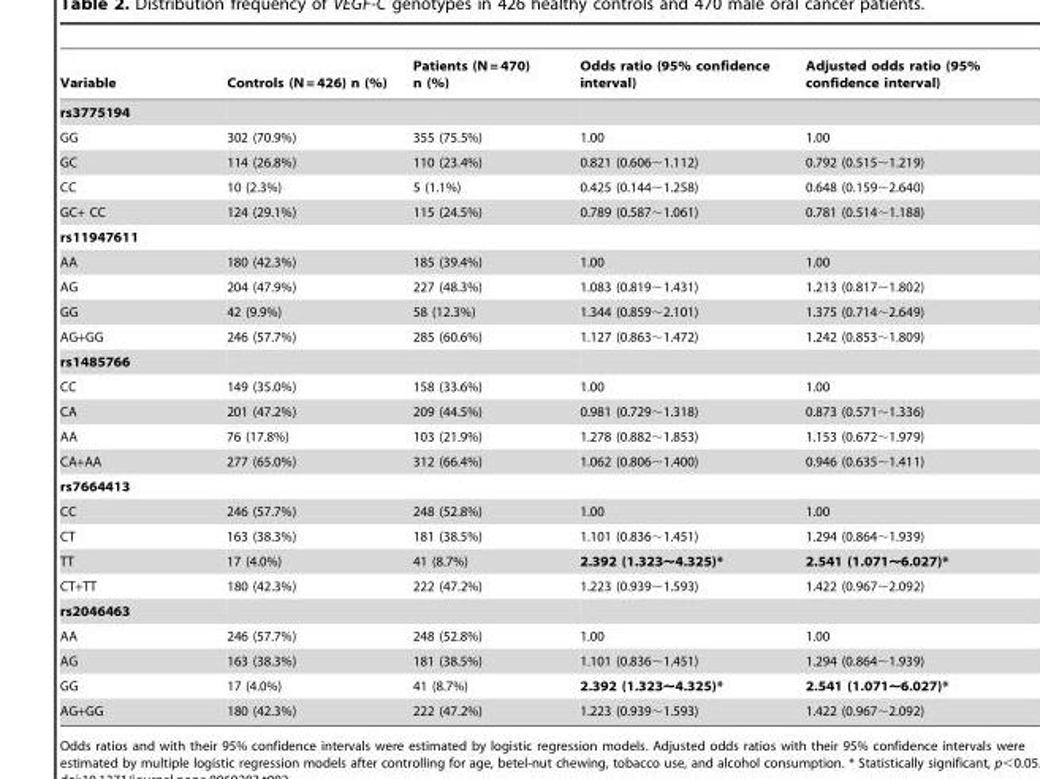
<table><thead><tr><td>Variable</td><td>Controls (N = 426) n (%)</td><td>Patients (N = 470) n (%)</td><td>Odds ratio (95% confidence interval)</td><td>Adjusted odds ratio (95% confidence interval)</td></tr></thead><tbody><tr><td colspan="5">rs3775194</td></tr><tr><td>GG</td><td>302 (70.9%)</td><td>355 (75.5%)</td><td>1.00</td><td>1.00</td></tr><tr><td>GC</td><td>114 (26.8%)</td><td>110 (23.4%)</td><td>0.821 (0.606∼1.112)</td><td>0.792 (0.515∼1.219)</td></tr><tr><td>CC</td><td>10 (2.3%)</td><td>5 (1.1%)</td><td>0.425 (0.144∼1.258)</td><td>0.648 (0.159∼2.640)</td></tr><tr><td>GC+ CC</td><td>124 (29.1%)</td><td>115 (24.5%)</td><td>0.789 (0.587∼1.061)</td><td>0.781 (0.514∼1.188)</td></tr><tr><td colspan="5">rs11947611</td></tr><tr><td>AA</td><td>180 (42.3%)</td><td>185 (39.4%)</td><td>1.00</td><td>1.00</td></tr><tr><td>AG</td><td>204 (47.9%)</td><td>227 (48.3%)</td><td>1.083 (0.819∼1.431)</td><td>1.213 (0.817∼1.802)</td></tr><tr><td>GG</td><td>42 (9.9%)</td><td>58 (12.3%)</td><td>1.344 (0.859∼2.101)</td><td>1.375 (0.714∼2.649)</td></tr><tr><td>AG+GG</td><td>246 (57.7%)</td><td>285 (60.6%)</td><td>1.127 (0.863∼1.472)</td><td>1.242 (0.853∼1.809)</td></tr><tr><td colspan="5">rs1485766</td></tr><tr><td>CC</td><td>149 (35.0%)</td><td>158 (33.6%)</td><td>1.00</td><td>1.00</td></tr><tr><td>CA</td><td>201 (47.2%)</td><td>209 (44.5%)</td><td>0.981 (0.729∼1.318)</td><td>0.873 (0.571∼1.336)</td></tr><tr><td>AA</td><td>76 (17.8%)</td><td>103 (21.9%)</td><td>1.278 (0.882∼1.853)</td><td>1.153 (0.672∼1.979)</td></tr><tr><td>CA+AA</td><td>277 (65.0%)</td><td>312 (66.4%)</td><td>1.062 (0.806∼1.400)</td><td>0.946 (0.635∼1.411)</td></tr><tr><td colspan="5">rs7664413</td></tr><tr><td>CC</td><td>246 (57.7%)</td><td>248 (52.8%)</td><td>1.00</td><td>1.00</td></tr><tr><td>CT</td><td>163 (38.3%)</td><td>181 (38.5%)</td><td>1.101 (0.836∼1.451)</td><td>1.294 (0.864∼1.939)</td></tr><tr><td>TT</td><td>17 (4.0%)</td><td>41 (8.7%)</td><td>2.392 (1.323∼4.325)*</td><td>2.541 (1.071∼6.027)*</td></tr><tr><td>CT+TT</td><td>180 (42.3%)</td><td>222 (47.2%)</td><td>1.223 (0.939∼1.593)</td><td>1.422 (0.967∼2.092)</td></tr><tr><td colspan="5">rs2046463</td></tr><tr><td>AA</td><td>246 (57.7%)</td><td>248 (52.8%)</td><td>1.00</td><td>1.00</td></tr><tr><td>AG</td><td>163 (38.3%)</td><td>181 (38.5%)</td><td>1.101 (0.836∼1.451)</td><td>1.294 (0.864∼1.939)</td></tr><tr><td>GG</td><td>17 (4.0%)</td><td>41 (8.7%)</td><td>2.392 (1.323∼4.325)*</td><td>2.541 (1.071∼6.027)*</td></tr><tr><td>AG+GG</td><td>180 (42.3%)</td><td>222 (47.2%)</td><td>1.223 (0.939∼1.593)</td><td>1.422 (0.967∼2.092)</td></tr></tbody></table>